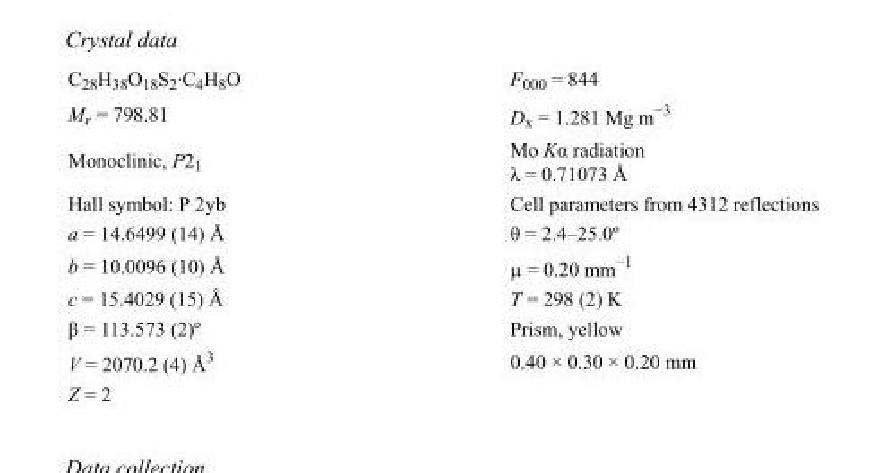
<table><tbody><tr><td>C<sub>28</sub>H<sub>38</sub>O<sub>18</sub>S<sub>2</sub>·C<sub>4</sub>H<sub>8</sub>O</td><td>F<sub>000</sub> = 844</td></tr><tr><td>M<sub>r</sub> = 798.81</td><td>D<sub>x</sub> = 1.281 Mg m<sup>−3</sup></td></tr><tr><td>Monoclinic, P2<sub>1</sub></td><td>Mo Kα radiation λ = 0.71073 Å</td></tr><tr><td>Hall symbol: P 2yb</td><td>Cell parameters from 4312 reflections</td></tr><tr><td>a = 14.6499 (14) Å</td><td>θ = 2.4–25.0º</td></tr><tr><td>b = 10.0096 (10) Å</td><td>µ = 0.20 mm<sup>−1</sup></td></tr><tr><td>c = 15.4029 (15) Å</td><td>T = 298 (2) K</td></tr><tr><td>β = 113.573 (2)º</td><td>Prism, yellow</td></tr><tr><td>V = 2070.2 (4) Å<sup>3</sup></td><td>0.40 × 0.30 × 0.20 mm</td></tr><tr><td>Z = 2</td><td></td></tr></tbody></table>